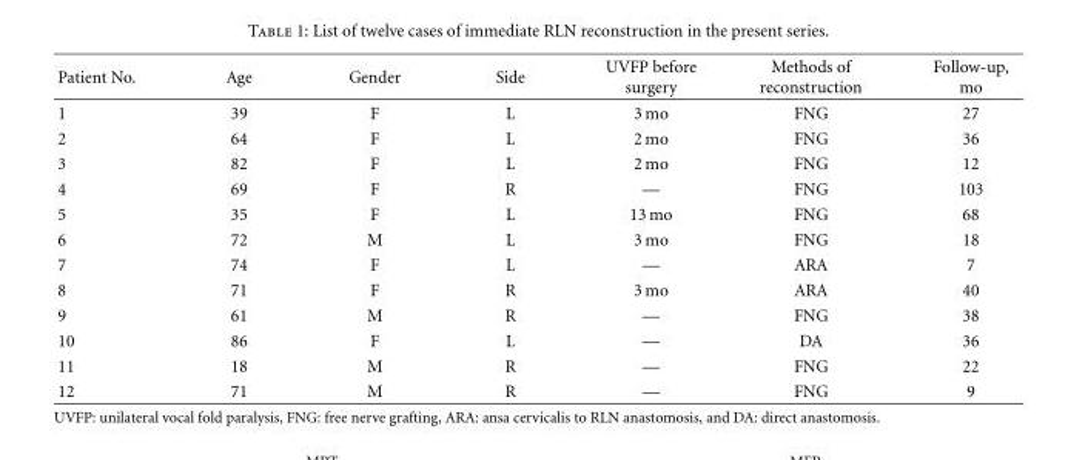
<table><thead><tr><td>Patient No.</td><td>Age</td><td>Gender</td><td>Side</td><td>UVFP before surgery</td><td>Methods of reconstruction</td><td>Follow-up, mo</td></tr></thead><tbody><tr><td>1</td><td>39</td><td>F</td><td>L</td><td>3 mo</td><td>FNG</td><td>27</td></tr><tr><td>2</td><td>64</td><td>F</td><td>L</td><td>2 mo</td><td>FNG</td><td>36</td></tr><tr><td>3</td><td>82</td><td>F</td><td>L</td><td>2 mo</td><td>FNG</td><td>12</td></tr><tr><td>4</td><td>69</td><td>F</td><td>R</td><td>—</td><td>FNG</td><td>103</td></tr><tr><td>5</td><td>35</td><td>F</td><td>L</td><td>13 mo</td><td>FNG</td><td>68</td></tr><tr><td>6</td><td>72</td><td>M</td><td>L</td><td>3 mo</td><td>FNG</td><td>18</td></tr><tr><td>7</td><td>74</td><td>F</td><td>L</td><td>—</td><td>ARA</td><td>7</td></tr><tr><td>8</td><td>71</td><td>F</td><td>R</td><td>3 mo</td><td>ARA</td><td>40</td></tr><tr><td>9</td><td>61</td><td>M</td><td>R</td><td>—</td><td>FNG</td><td>38</td></tr><tr><td>10</td><td>86</td><td>F</td><td>L</td><td>—</td><td>DA</td><td>36</td></tr><tr><td>11</td><td>18</td><td>M</td><td>R</td><td>—</td><td>FNG</td><td>22</td></tr><tr><td>12</td><td>71</td><td>M</td><td>R</td><td>—</td><td>FNG</td><td>9</td></tr></tbody></table>